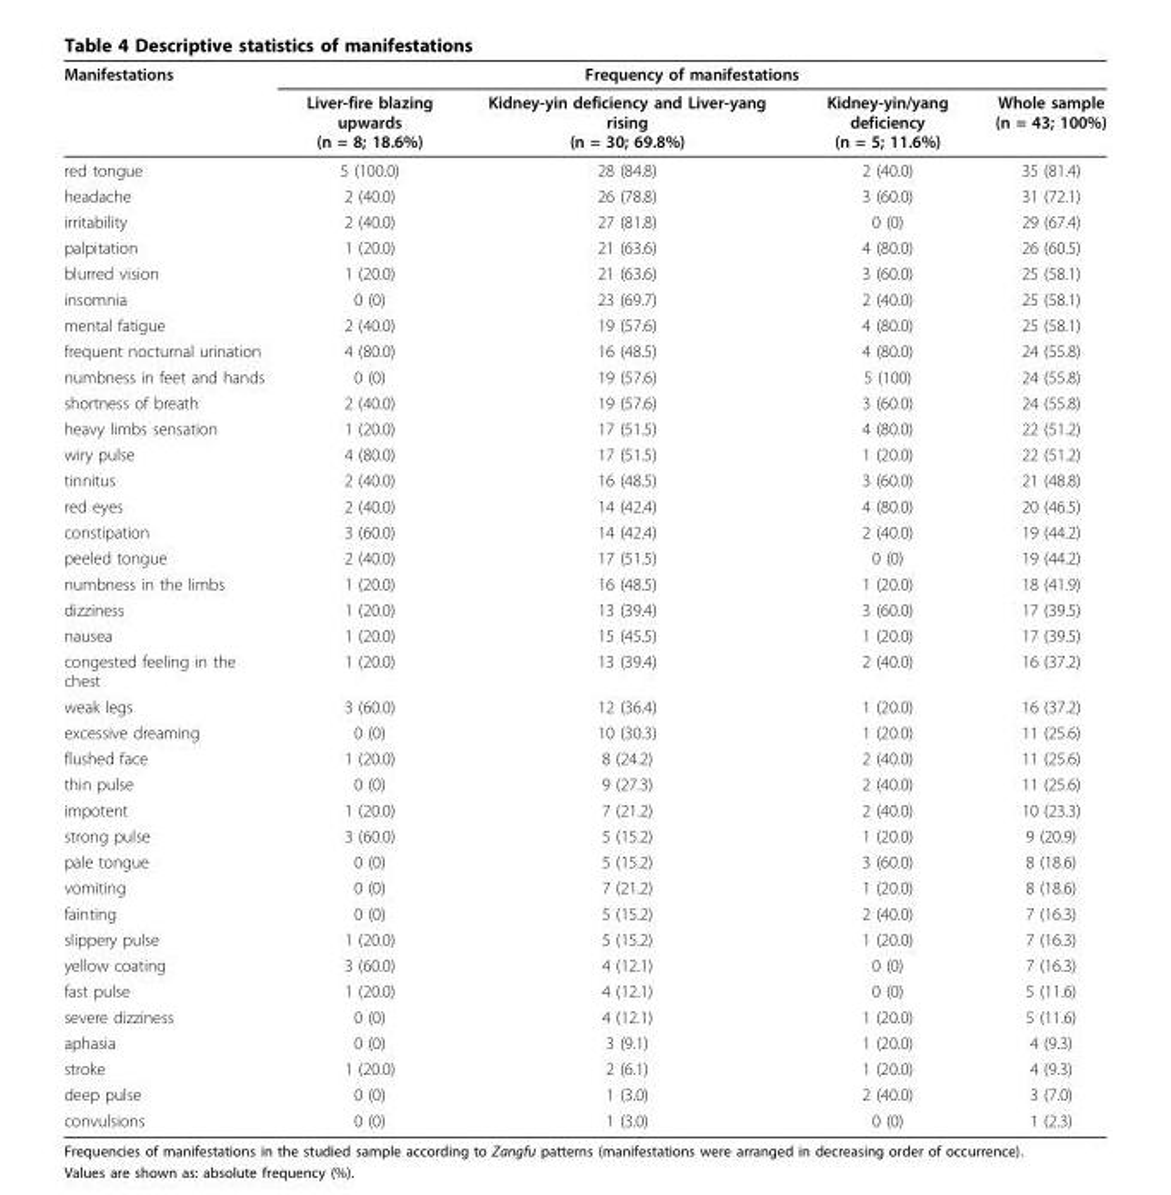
<table><thead><tr><td rowspan="2">Manifestations</td><td colspan="4">Frequency of manifestations</td></tr><tr><td>Liver-fire blazing upwards (n = 8; 18.6%)</td><td>Kidney-yin deficiency and Liver-yang rising (n = 30; 69.8%)</td><td>Kidney-yin/yang deficiency (n = 5; 11.6%)</td><td>Whole sample (n = 43; 100%)</td></tr></thead><tbody><tr><td>red tongue</td><td>5 (100.0)</td><td>28 (84.8)</td><td>2 (40.0)</td><td>35 (81.4)</td></tr><tr><td>headache</td><td>2 (40.0)</td><td>26 (78.8)</td><td>3 (60.0)</td><td>31 (72.1)</td></tr><tr><td>irritability</td><td>2 (40.0)</td><td>27 (81.8)</td><td>0 (0)</td><td>29 (67.4)</td></tr><tr><td>palpitation</td><td>1 (20.0)</td><td>21 (63.6)</td><td>4 (80.0)</td><td>26 (60.5)</td></tr><tr><td>blurred vision</td><td>1 (20.0)</td><td>21 (63.6)</td><td>3 (60.0)</td><td>25 (58.1)</td></tr><tr><td>insomnia</td><td>0 (0)</td><td>23 (69.7)</td><td>2 (40.0)</td><td>25 (58.1)</td></tr><tr><td>mental fatigue</td><td>2 (40.0)</td><td>19 (57.6)</td><td>4 (80.0)</td><td>25 (58.1)</td></tr><tr><td>frequent nocturnal urination</td><td>4 (80.0)</td><td>16 (48.5)</td><td>4 (80.0)</td><td>24 (55.8)</td></tr><tr><td>numbness in feet and hands</td><td>0 (0)</td><td>19 (57.6)</td><td>5 (100)</td><td>24 (55.8)</td></tr><tr><td>shortness of breath</td><td>2 (40.0)</td><td>19 (57.6)</td><td>3 (60.0)</td><td>24 (55.8)</td></tr><tr><td>heavy limbs sensation</td><td>1 (20.0)</td><td>17 (51.5)</td><td>4 (80.0)</td><td>22 (51.2)</td></tr><tr><td>wiry pulse</td><td>4 (80.0)</td><td>17 (51.5)</td><td>1 (20.0)</td><td>22 (51.2)</td></tr><tr><td>tinnitus</td><td>2 (40.0)</td><td>16 (48.5)</td><td>3 (60.0)</td><td>21 (48.8)</td></tr><tr><td>red eyes</td><td>2 (40.0)</td><td>14 (42.4)</td><td>4 (80.0)</td><td>20 (46.5)</td></tr><tr><td>constipation</td><td>3 (60.0)</td><td>14 (42.4)</td><td>2 (40.0)</td><td>19 (44.2)</td></tr><tr><td>peeled tongue</td><td>2 (40.0)</td><td>17 (51.5)</td><td>0 (0)</td><td>19 (44.2)</td></tr><tr><td>numbness in the limbs</td><td>1 (20.0)</td><td>16 (48.5)</td><td>1 (20.0)</td><td>18 (41.9)</td></tr><tr><td>dizziness</td><td>1 (20.0)</td><td>13 (39.4)</td><td>3 (60.0)</td><td>17 (39.5)</td></tr><tr><td>nausea</td><td>1 (20.0)</td><td>15 (45.5)</td><td>1 (20.0)</td><td>17 (39.5)</td></tr><tr><td>congested feeling in the chest</td><td>1 (20.0)</td><td>13 (39.4)</td><td>2 (40.0)</td><td>16 (37.2)</td></tr><tr><td>weak legs</td><td>3 (60.0)</td><td>12 (36.4)</td><td>1 (20.0)</td><td>16 (37.2)</td></tr><tr><td>excessive dreaming</td><td>0 (0)</td><td>10 (30.3)</td><td>1 (20.0)</td><td>11 (25.6)</td></tr><tr><td>flushed face</td><td>1 (20.0)</td><td>8 (24.2)</td><td>2 (40.0)</td><td>11 (25.6)</td></tr><tr><td>thin pulse</td><td>0 (0)</td><td>9 (27.3)</td><td>2 (40.0)</td><td>11 (25.6)</td></tr><tr><td>impotent</td><td>1 (20.0)</td><td>7 (21.2)</td><td>2 (40.0)</td><td>10 (23.3)</td></tr><tr><td>strong pulse</td><td>3 (60.0)</td><td>5 (15.2)</td><td>1 (20.0)</td><td>9 (20.9)</td></tr><tr><td>pale tongue</td><td>0 (0)</td><td>5 (15.2)</td><td>3 (60.0)</td><td>8 (18.6)</td></tr><tr><td>vomiting</td><td>0 (0)</td><td>7 (21.2)</td><td>1 (20.0)</td><td>8 (18.6)</td></tr><tr><td>fainting</td><td>0 (0)</td><td>5 (15.2)</td><td>2 (40.0)</td><td>7 (16.3)</td></tr><tr><td>slippery pulse</td><td>1 (20.0)</td><td>5 (15.2)</td><td>1 (20.0)</td><td>7 (16.3)</td></tr><tr><td>yellow coating</td><td>3 (60.0)</td><td>4 (12.1)</td><td>0 (0)</td><td>7 (16.3)</td></tr><tr><td>fast pulse</td><td>1 (20.0)</td><td>4 (12.1)</td><td>0 (0)</td><td>5 (11.6)</td></tr><tr><td>severe dizziness</td><td>0 (0)</td><td>4 (12.1)</td><td>1 (20.0)</td><td>5 (11.6)</td></tr><tr><td>aphasia</td><td>0 (0)</td><td>3 (9.1)</td><td>1 (20.0)</td><td>4 (9.3)</td></tr><tr><td>stroke</td><td>1 (20.0)</td><td>2 (6.1)</td><td>1 (20.0)</td><td>4 (9.3)</td></tr><tr><td>deep pulse</td><td>0 (0)</td><td>1 (3.0)</td><td>2 (40.0)</td><td>3 (7.0)</td></tr><tr><td>convulsions</td><td>0 (0)</td><td>1 (3.0)</td><td>0 (0)</td><td>1 (2.3)</td></tr></tbody></table>